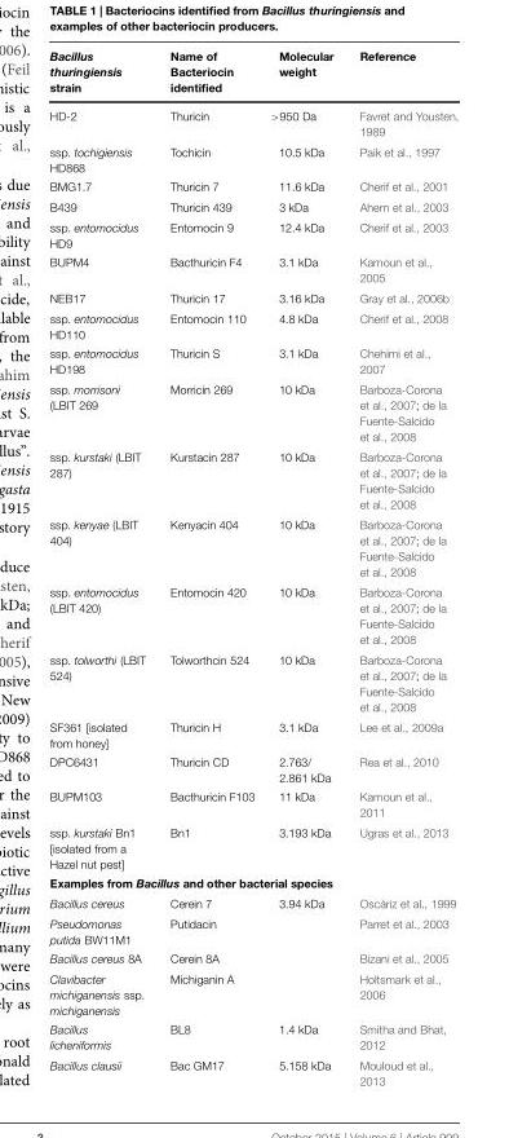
<table><thead><tr><td>Bacillus thuringiensis strain</td><td>Name of Bacteriocin identified</td><td>Molecular weight</td><td>Reference</td></tr></thead><tbody><tr><td>HD-2</td><td>Thuricin</td><td>&gt;950 Da</td><td>Favret and Yousten, 1989</td></tr><tr><td>ssp. tochigiensis HD868</td><td>Tochicin</td><td>10.5 kDa</td><td>Paik et al., 1997</td></tr><tr><td>BMG1.7</td><td>Thuricin 7</td><td>11.6 kDa</td><td>Cherif et al., 2001</td></tr><tr><td>B439</td><td>Thuricin 439</td><td>3 kDa</td><td>Ahern et al., 2003</td></tr><tr><td>ssp. entomocidus HD9</td><td>Entomocin 9</td><td>12.4 kDa</td><td>Cherif et al., 2003</td></tr><tr><td>BUPM4</td><td>Bacthuricin F4</td><td>3.1 kDa</td><td>Kamoun et al., 2005</td></tr><tr><td>NEB17</td><td>Thuricin 17</td><td>3.16 kDa</td><td>Gray et al., 2006b</td></tr><tr><td>ssp. entomocidus HD110</td><td>Entomocin 110</td><td>4.8 kDa</td><td>Cherif et al., 2008</td></tr><tr><td>ssp. entomocidus HD198</td><td>Thuricin S</td><td>3.1 kDa</td><td>Chehimi et al., 2007</td></tr><tr><td>ssp. morrisoni (LBIT 269</td><td>Morricin 269</td><td>10 kDa</td><td>Barboza-Corona et al., 2007; de la Fuente-Salcido et al., 2008</td></tr><tr><td>ssp. kurstaki (LBIT 287)</td><td>Kurstacin 287</td><td>10 kDa</td><td>Barboza-Corona et al., 2007; de la Fuente-Salcido et al., 2008</td></tr><tr><td>ssp. kenyae (LBIT 404)</td><td>Kenyacin 404</td><td>10 kDa</td><td>Barboza-Corona et al., 2007; de la Fuente-Salcido et al., 2008</td></tr><tr><td>ssp. entomocidus (LBIT 420)</td><td>Entomocin 420</td><td>10 kDa</td><td>Barboza-Corona et al., 2007; de la Fuente-Salcido et al., 2008</td></tr><tr><td>ssp. tolworthi (LBIT 524)</td><td>Tolworthcin 524</td><td>10 kDa</td><td>Barboza-Corona et al., 2007; de la Fuente-Salcido et al., 2008</td></tr><tr><td>SF361 [isolated from honey]</td><td>Thuricin H</td><td>3.1 kDa</td><td>Lee et al., 2009a</td></tr><tr><td>DPC6431</td><td>Thuricin CD</td><td>2.763/ 2.861 kDa</td><td>Rea et al., 2010</td></tr><tr><td>BUPM103</td><td>Bacthuricin F103</td><td>11 kDa</td><td>Kamoun et al., 2011</td></tr><tr><td>ssp. kurstaki Bn1 [isolated from a Hazel nut pest]</td><td>Bn1</td><td>3.193 kDa</td><td>Ugras et al., 2013</td></tr><tr><td colspan="4">Examples from Bacillus and other bacterial species</td></tr><tr><td>Bacillus cereus</td><td>Cerein 7</td><td>3.94 kDa</td><td>Oscáriz et al., 1999</td></tr><tr><td>Pseudomonas putida BW11M1</td><td>Putidacin</td><td></td><td>Parret et al., 2003</td></tr><tr><td>Bacillus cereus 8A</td><td>Cerein 8A</td><td></td><td>Bizani et al., 2005</td></tr><tr><td>Clavibacter michiganensis ssp. michiganensis</td><td>Michiganin A</td><td></td><td>Holtsmark et al., 2006</td></tr><tr><td>Bacillus licheniformis</td><td>BL8</td><td>1.4 kDa</td><td>Smitha and Bhat, 2012</td></tr><tr><td>Bacillus clausii</td><td>Bac GM17</td><td>5.158 kDa</td><td>Mouloud et al., 2013</td></tr></tbody></table>